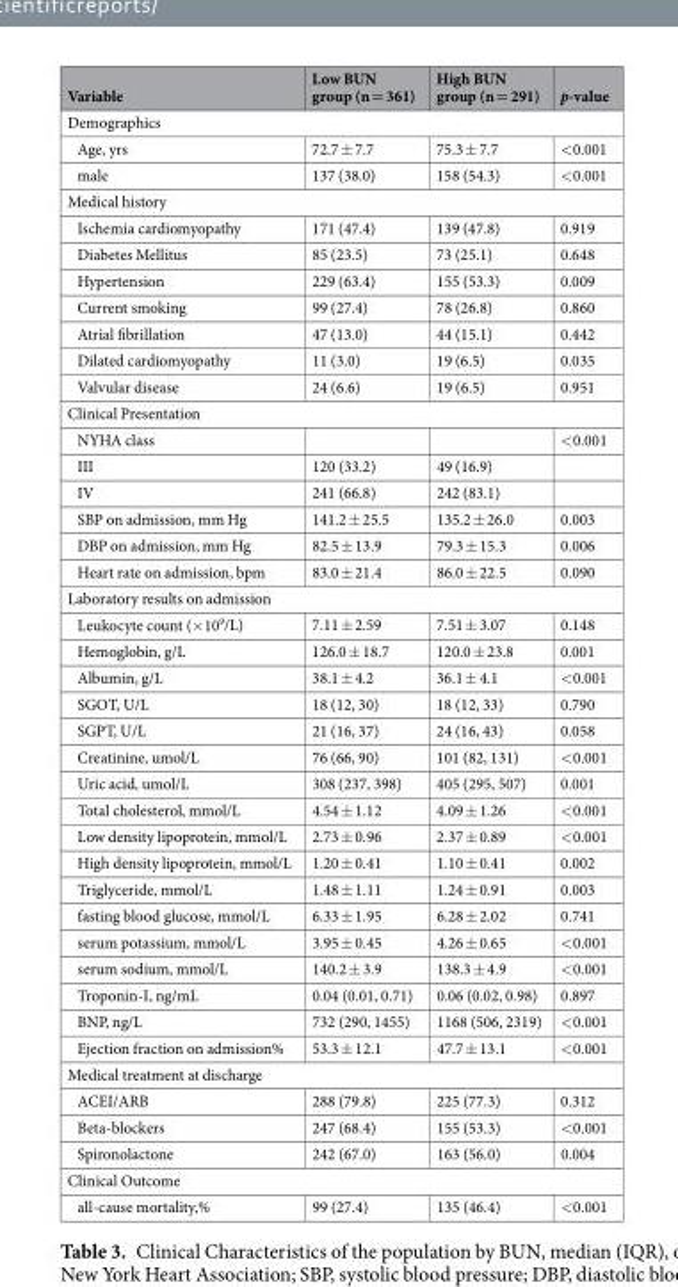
<table><thead><tr><td>Variable</td><td>Low BUN group (n = 361)</td><td>High BUN group (n = 291)</td><td>p-value</td></tr></thead><tbody><tr><td colspan="4">Demographics</td></tr><tr><td>Age, yrs</td><td>72.7 ± 7.7</td><td>75.3 ± 7.7</td><td>&lt;0.001</td></tr><tr><td>male</td><td>137 (38.0)</td><td>158 (54.3)</td><td>&lt;0.001</td></tr><tr><td colspan="4">Medical history</td></tr><tr><td>Ischemia cardiomyopathy</td><td>171 (47.4)</td><td>139 (47.8)</td><td>0.919</td></tr><tr><td>Diabetes Mellitus</td><td>85 (23.5)</td><td>73 (25.1)</td><td>0.648</td></tr><tr><td>Hypertension</td><td>229 (63.4)</td><td>155 (53.3)</td><td>0.009</td></tr><tr><td>Current smoking</td><td>99 (27.4)</td><td>78 (26.8)</td><td>0.860</td></tr><tr><td>Atrial fibrillation</td><td>47 (13.0)</td><td>44 (15.1)</td><td>0.442</td></tr><tr><td>Dilated cardiomyopathy</td><td>11 (3.0)</td><td>19 (6.5)</td><td>0.035</td></tr><tr><td>Valvular disease</td><td>24 (6.6)</td><td>19 (6.5)</td><td>0.951</td></tr><tr><td colspan="4">Clinical Presentation</td></tr><tr><td>NYHA class</td><td></td><td></td><td>&lt;0.001</td></tr><tr><td>III</td><td>120 (33.2)</td><td>49 (16.9)</td><td></td></tr><tr><td>IV</td><td>241 (66.8)</td><td>242 (83.1)</td><td></td></tr><tr><td>SBP on admission, mm Hg</td><td>141.2 ± 25.5</td><td>135.2 ± 26.0</td><td>0.003</td></tr><tr><td>DBP on admission, mm Hg</td><td>82.5 ± 13.9</td><td>79.3 ± 15.3</td><td>0.006</td></tr><tr><td>Heart rate on admission, bpm</td><td>83.0 ± 21.4</td><td>86.0 ± 22.5</td><td>0.090</td></tr><tr><td colspan="4">Laboratory results on admission</td></tr><tr><td>Leukocyte count (×10<sup>9</sup>/L)</td><td>7.11 ± 2.59</td><td>7.51 ± 3.07</td><td>0.148</td></tr><tr><td>Hemoglobin, g/L</td><td>126.0 ± 18.7</td><td>120.0 ± 23.8</td><td>0.001</td></tr><tr><td>Albumin, g/L</td><td>38.1 ± 4.2</td><td>36.1 ± 4.1</td><td>&lt;0.001</td></tr><tr><td>SGOT, U/L</td><td>18 (12, 30)</td><td>18 (12, 33)</td><td>0.790</td></tr><tr><td>SGPT, U/L</td><td>21 (16, 37)</td><td>24 (16, 43)</td><td>0.058</td></tr><tr><td>Creatinine, umol/L</td><td>76 (66, 90)</td><td>101 (82, 131)</td><td>&lt;0.001</td></tr><tr><td>Uric acid, umol/L</td><td>308 (237, 398)</td><td>405 (295, 507)</td><td>0.001</td></tr><tr><td>Total cholesterol, mmol/L</td><td>4.54 ± 1.12</td><td>4.09 ± 1.26</td><td>&lt;0.001</td></tr><tr><td>Low density lipoprotein, mmol/L</td><td>2.73 ± 0.96</td><td>2.37 ± 0.89</td><td>&lt;0.001</td></tr><tr><td>High density lipoprotein, mmol/L</td><td>1.20 ± 0.41</td><td>1.10 ± 0.41</td><td>0.002</td></tr><tr><td>Triglyceride, mmol/L</td><td>1.48 ± 1.11</td><td>1.24 ± 0.91</td><td>0.003</td></tr><tr><td>fasting blood glucose, mmol/L</td><td>6.33 ± 1.95</td><td>6.28 ± 2.02</td><td>0.741</td></tr><tr><td>serum potassium, mmol/L</td><td>3.95 ± 0.45</td><td>4.26 ± 0.65</td><td>&lt;0.001</td></tr><tr><td>serum sodium, mmol/L</td><td>140.2 ± 3.9</td><td>138.3 ± 4.9</td><td>&lt;0.001</td></tr><tr><td>Troponin-I, ng/mL</td><td>0.04 (0.01, 0.71)</td><td>0.06 (0.02, 0.98)</td><td>0.897</td></tr><tr><td>BNP, ng/L</td><td>732 (290, 1455)</td><td>1168 (506, 2319)</td><td>&lt;0.001</td></tr><tr><td>Ejection fraction on admission%</td><td>53.3 ± 12.1</td><td>47.7 ± 13.1</td><td>&lt;0.001</td></tr><tr><td colspan="4">Medical treatment at discharge</td></tr><tr><td>ACEI/ARB</td><td>288 (79.8)</td><td>225 (77.3)</td><td>0.312</td></tr><tr><td>Beta-blockers</td><td>247 (68.4)</td><td>155 (53.3)</td><td>&lt;0.001</td></tr><tr><td>Spironolactone</td><td>242 (67.0)</td><td>163 (56.0)</td><td>0.004</td></tr><tr><td colspan="4">Clinical Outcome</td></tr><tr><td>all-cause mortality,%</td><td>99 (27.4)</td><td>135 (46.4)</td><td>&lt;0.001</td></tr></tbody></table>